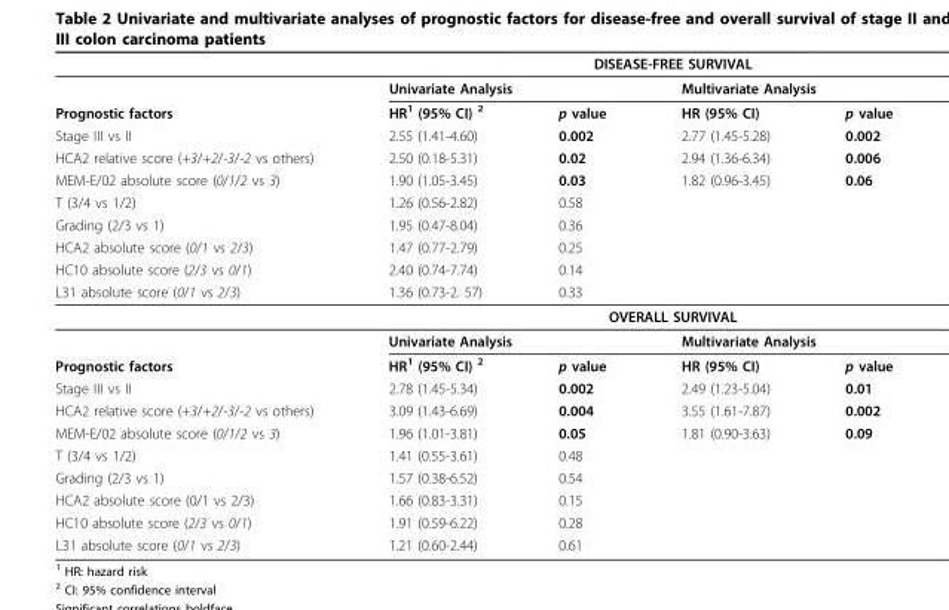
<table><thead><tr><td rowspan="3">Prognostic factors</td><td colspan="4">DISEASE-FREE SURVIVAL</td></tr><tr><td colspan="2">Univariate Analysis</td><td colspan="2">Multivariate Analysis</td></tr><tr><td>HR<sup>1</sup> (95% CI) <sup>2</sup></td><td>p value</td><td>HR (95% CI)</td><td>p value</td></tr></thead><tbody><tr><td>Stage III vs II</td><td>2.55 (1.41-4.60)</td><td>0.002</td><td>2.77 (1.45-5.28)</td><td>0.002</td></tr><tr><td>HCA2 relative score (+3/+2/-3/-2 vs others)</td><td>2.50 (0.18-5.31)</td><td>0.02</td><td>2.94 (1.36-6.34)</td><td>0.006</td></tr><tr><td>MEM-E/02 absolute score (0/1/2 vs 3)</td><td>1.90 (1.05-3.45)</td><td>0.03</td><td>1.82 (0.96-3.45)</td><td>0.06</td></tr><tr><td>T (3/4 vs 1/2)</td><td>1.26 (0.56-2.82)</td><td>0.58</td><td></td><td></td></tr><tr><td>Grading (2/3 vs 1)</td><td>1.95 (0.47-8.04)</td><td>0.36</td><td></td><td></td></tr><tr><td>HCA2 absolute score (0/1 vs 2/3)</td><td>1.47 (0.77-2.79)</td><td>0.25</td><td></td><td></td></tr><tr><td>HC10 absolute score (2/3 vs 0/1)</td><td>2.40 (0.74-7.74)</td><td>0.14</td><td></td><td></td></tr><tr><td rowspan="3">L31 absolute score (0/1 vs 2/3)</td><td>1.36 (0.73-2. 57)</td><td>0.33</td><td></td><td></td></tr><tr><td colspan="4">OVERALL SURVIVAL</td></tr><tr><td colspan="2">Univariate Analysis</td><td colspan="2">Multivariate Analysis</td></tr><tr><td>Prognostic factors</td><td>HR<sup>1</sup> (95% CI) <sup>2</sup></td><td>p value</td><td>HR (95% CI)</td><td>p value</td></tr><tr><td>Stage III vs II</td><td>2.78 (1.45-5.34)</td><td>0.002</td><td>2.49 (1.23-5.04)</td><td>0.01</td></tr><tr><td>HCA2 relative score (+3/+2/-3/-2 vs others)</td><td>3.09 (1.43-6.69)</td><td>0.004</td><td>3.55 (1.61-7.87)</td><td>0.002</td></tr><tr><td>MEM-E/02 absolute score (0/1/2 vs 3)</td><td>1.96 (1.01-3.81)</td><td>0.05</td><td>1.81 (0.90-3.63)</td><td>0.09</td></tr><tr><td>T (3/4 vs 1/2)</td><td>1.41 (0.55-3.61)</td><td>0.48</td><td></td><td></td></tr><tr><td>Grading (2/3 vs 1)</td><td>1.57 (0.38-6.52)</td><td>0.54</td><td></td><td></td></tr><tr><td>HCA2 absolute score (0/1 vs 2/3)</td><td>1.66 (0.83-3.31)</td><td>0.15</td><td></td><td></td></tr><tr><td>HC10 absolute score (2/3 vs 0/1)</td><td>1.91 (0.59-6.22)</td><td>0.28</td><td></td><td></td></tr><tr><td>L31 absolute score (0/1 vs 2/3)</td><td>1.21 (0.60-2.44)</td><td>0.61</td><td></td><td></td></tr></tbody></table>